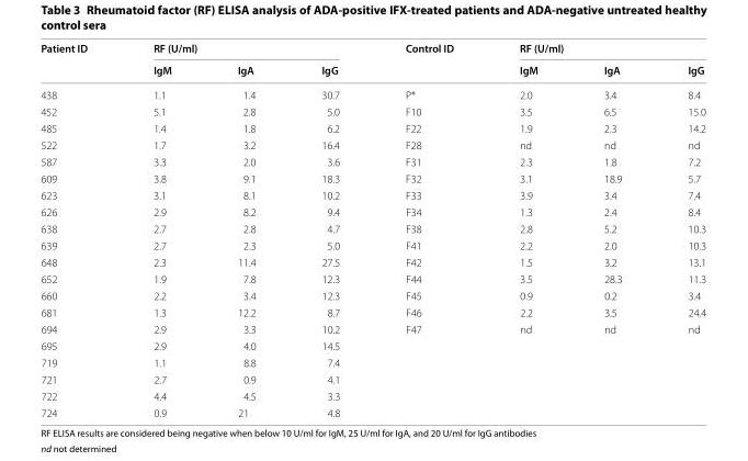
<table><thead><tr><td rowspan="2">Patient ID</td><td colspan="3">RF (U/ml)</td><td rowspan="2">Control ID</td><td colspan="3">RF (U/ml)</td></tr><tr><td>IgM</td><td>IgA</td><td>IgG</td><td>IgM</td><td>IgA</td><td>IgG</td></tr></thead><tbody><tr><td>438</td><td>1.1</td><td>1.4</td><td>30.7</td><td>P*</td><td>2.0</td><td>3.4</td><td>8.4</td></tr><tr><td>452</td><td>5.1</td><td>2.8</td><td>5.0</td><td>F10</td><td>3.5</td><td>6.5</td><td>15.0</td></tr><tr><td>485</td><td>1.4</td><td>1.8</td><td>6.2</td><td>F22</td><td>1.9</td><td>2.3</td><td>14.2</td></tr><tr><td>522</td><td>1.7</td><td>3.2</td><td>16.4</td><td>F28</td><td>nd</td><td>nd</td><td>nd</td></tr><tr><td>587</td><td>3.3</td><td>2.0</td><td>3.6</td><td>F31</td><td>2.3</td><td>1.8</td><td>7.2</td></tr><tr><td>609</td><td>3.8</td><td>9.1</td><td>18.3</td><td>F32</td><td>3.1</td><td>18.9</td><td>5.7</td></tr><tr><td>623</td><td>3.1</td><td>8.1</td><td>10.2</td><td>F33</td><td>3.9</td><td>3.4</td><td>7.4</td></tr><tr><td>626</td><td>2.9</td><td>8.2</td><td>9.4</td><td>F34</td><td>1.3</td><td>2.4</td><td>8.4</td></tr><tr><td>638</td><td>2.7</td><td>2.8</td><td>4.7</td><td>F38</td><td>2.8</td><td>5.2</td><td>10.3</td></tr><tr><td>639</td><td>2.7</td><td>2.3</td><td>5.0</td><td>F41</td><td>2.2</td><td>2.0</td><td>10.3</td></tr><tr><td>648</td><td>2.3</td><td>11.4</td><td>27.5</td><td>F42</td><td>1.5</td><td>3.2</td><td>13.1</td></tr><tr><td>652</td><td>1.9</td><td>7.8</td><td>12.3</td><td>F44</td><td>3.5</td><td>28.3</td><td>11.3</td></tr><tr><td>660</td><td>2.2</td><td>3.4</td><td>12.3</td><td>F45</td><td>0.9</td><td>0.2</td><td>3.4</td></tr><tr><td>681</td><td>1.3</td><td>12.2</td><td>8.7</td><td>F46</td><td>2.2</td><td>3.5</td><td>24.4</td></tr><tr><td>694</td><td>2.9</td><td>3.3</td><td>10.2</td><td>F47</td><td>nd</td><td>nd</td><td>nd</td></tr><tr><td>695</td><td>2.9</td><td>4.0</td><td>14.5</td><td></td><td></td><td></td><td></td></tr><tr><td>719</td><td>1.1</td><td>8.8</td><td>7.4</td><td></td><td></td><td></td><td></td></tr><tr><td>721</td><td>2.7</td><td>0.9</td><td>4.1</td><td></td><td></td><td></td><td></td></tr><tr><td>722</td><td>4.4</td><td>4.5</td><td>3.3</td><td></td><td></td><td></td><td></td></tr><tr><td>724</td><td>0.9</td><td>21</td><td>4.8</td><td></td><td></td><td></td><td></td></tr></tbody></table>